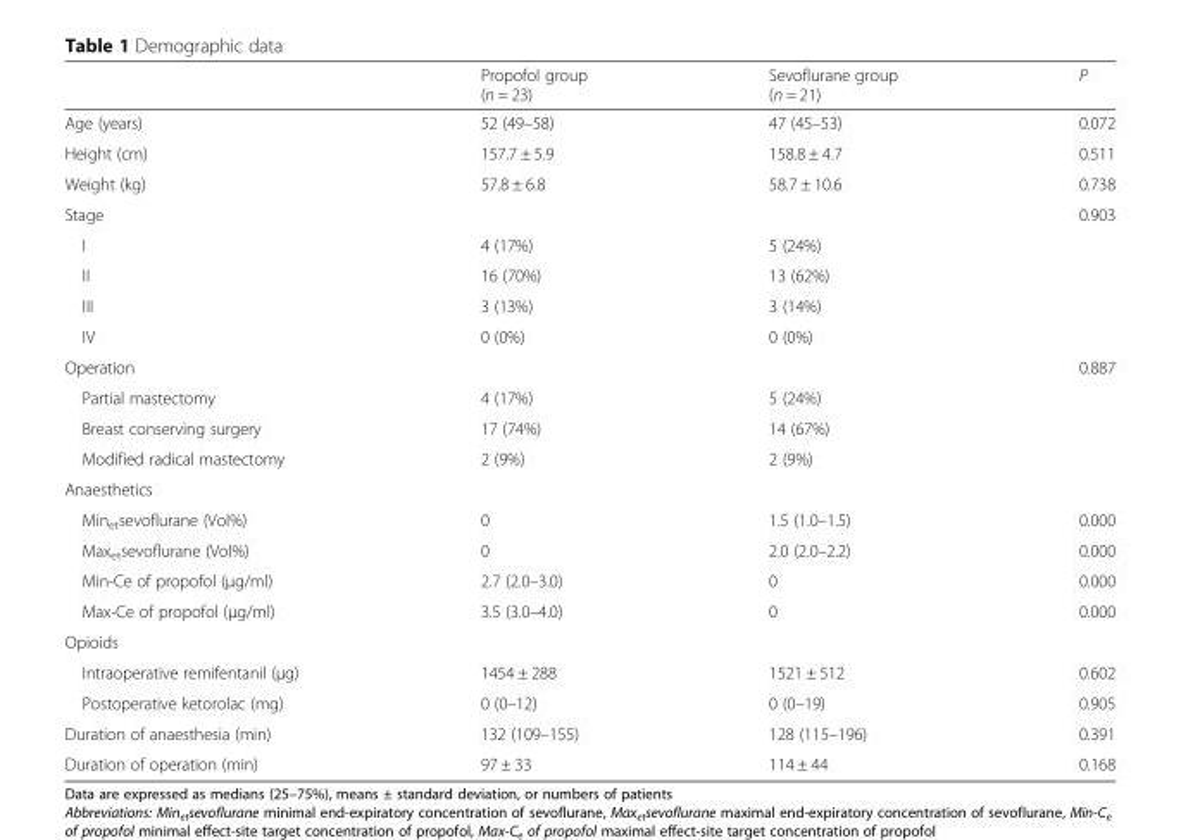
<table><thead><tr><td></td><td>Propofol group (n = 23)</td><td>Sevoflurane group (n = 21)</td><td>P</td></tr></thead><tbody><tr><td>Age (years)</td><td>52 (49–58)</td><td>47 (45–53)</td><td>0.072</td></tr><tr><td>Height (cm)</td><td>157.7 ± 5.9</td><td>158.8 ± 4.7</td><td>0.511</td></tr><tr><td>Weight (kg)</td><td>57.8 ± 6.8</td><td>58.7 ± 10.6</td><td>0.738</td></tr><tr><td>Stage</td><td></td><td></td><td>0.903</td></tr><tr><td>I</td><td>4 (17%)</td><td>5 (24%)</td><td></td></tr><tr><td>II</td><td>16 (70%)</td><td>13 (62%)</td><td></td></tr><tr><td>III</td><td>3 (13%)</td><td>3 (14%)</td><td></td></tr><tr><td>IV</td><td>0 (0%)</td><td>0 (0%)</td><td></td></tr><tr><td>Operation</td><td></td><td></td><td>0.887</td></tr><tr><td>Partial mastectomy</td><td>4 (17%)</td><td>5 (24%)</td><td></td></tr><tr><td>Breast conserving surgery</td><td>17 (74%)</td><td>14 (67%)</td><td></td></tr><tr><td>Modified radical mastectomy</td><td>2 (9%)</td><td>2 (9%)</td><td></td></tr><tr><td colspan="4">Anaesthetics</td></tr><tr><td>Min<sub>et</sub>sevoflurane (Vol%)</td><td>0</td><td>1.5 (1.0–1.5)</td><td>0.000</td></tr><tr><td>Max<sub>et</sub>sevoflurane (Vol%)</td><td>0</td><td>2.0 (2.0–2.2)</td><td>0.000</td></tr><tr><td>Min-Ce of propofol (μg/ml)</td><td>2.7 (2.0–3.0)</td><td>0</td><td>0.000</td></tr><tr><td>Max-Ce of propofol (μg/ml)</td><td>3.5 (3.0–4.0)</td><td>0</td><td>0.000</td></tr><tr><td colspan="4">Opioids</td></tr><tr><td>Intraoperative remifentanil (μg)</td><td>1454 ± 288</td><td>1521 ± 512</td><td>0.602</td></tr><tr><td>Postoperative ketorolac (mg)</td><td>0 (0–12)</td><td>0 (0–19)</td><td>0.905</td></tr><tr><td>Duration of anaesthesia (min)</td><td>132 (109–155)</td><td>128 (115–196)</td><td>0.391</td></tr><tr><td>Duration of operation (min)</td><td>97 ± 33</td><td>114 ± 44</td><td>0.168</td></tr></tbody></table>